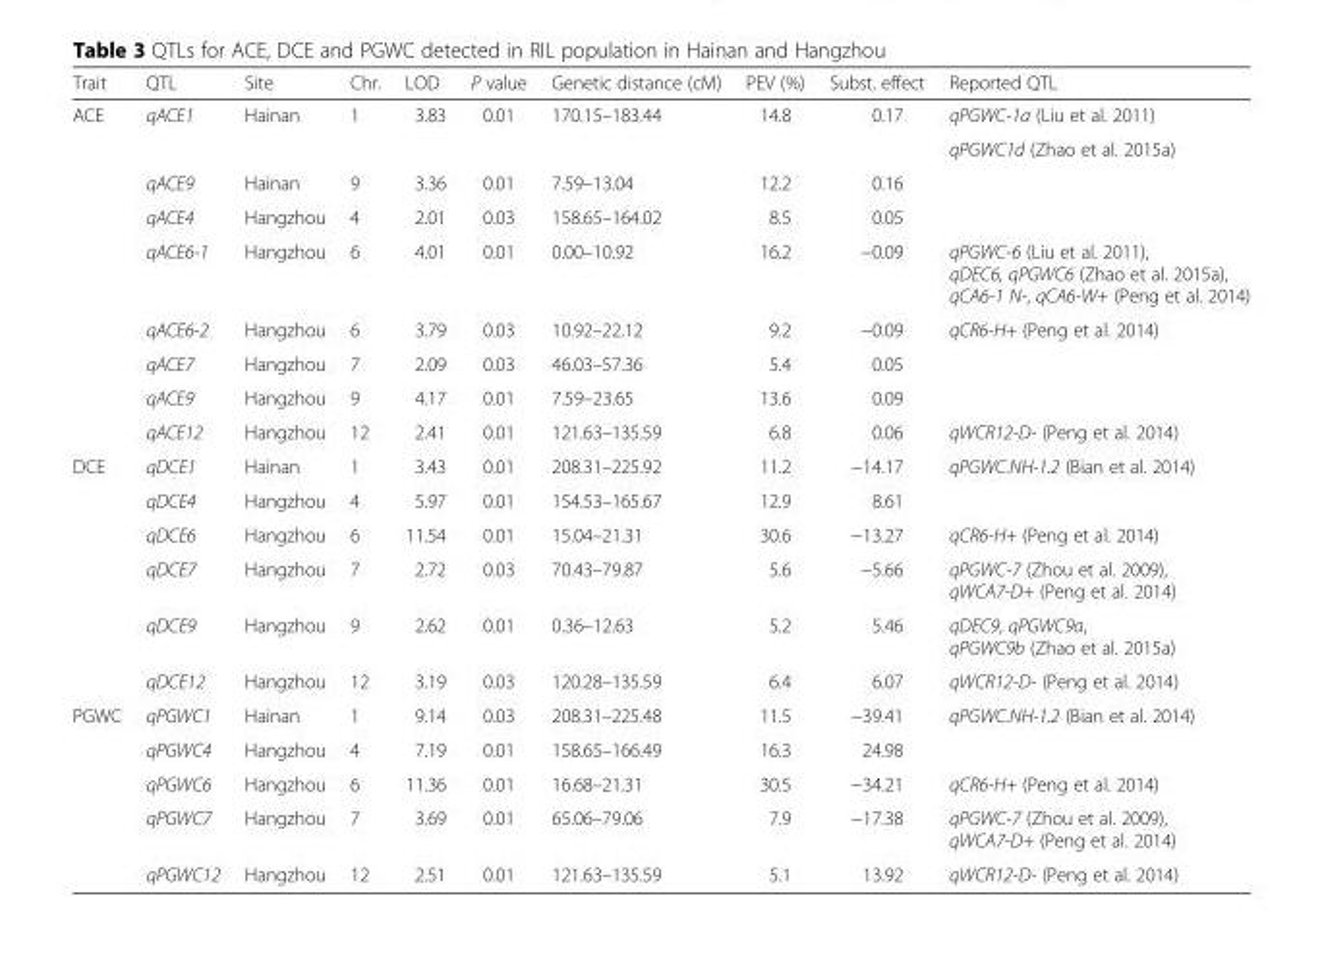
<table><thead><tr><td>Trait</td><td>QTL</td><td>Site</td><td>Chr.</td><td>LOD</td><td>P value</td><td>Genetic distance (cM)</td><td>PEV (%)</td><td>Subst. effect</td><td>Reported QTL</td></tr></thead><tbody><tr><td rowspan="9">ACE</td><td rowspan="2">qACE1</td><td rowspan="2">Hainan</td><td rowspan="2">1</td><td rowspan="2">3.83</td><td rowspan="2">0.01</td><td rowspan="2">170.15–183.44</td><td rowspan="2">14.8</td><td rowspan="2">0.17</td><td>qPGWC-1a (Liu et al. 2011)</td></tr><tr><td>qPGWC1d (Zhao et al. 2015a)</td></tr><tr><td>qACE9</td><td>Hainan</td><td>9</td><td>3.36</td><td>0.01</td><td>7.59–13.04</td><td>12.2</td><td>0.16</td><td></td></tr><tr><td>qACE4</td><td>Hangzhou</td><td>4</td><td>2.01</td><td>0.03</td><td>158.65–164.02</td><td>8.5</td><td>0.05</td><td></td></tr><tr><td>qACE6-1</td><td>Hangzhou</td><td>6</td><td>4.01</td><td>0.01</td><td>0.00–10.92</td><td>16.2</td><td>−0.09</td><td>qPGWC-6 (Liu et al. 2011), qDEC6, qPGWC6 (Zhao et al. 2015a), qCA6-1 N-, qCA6-W+ (Peng et al. 2014)</td></tr><tr><td>qACE6-2</td><td>Hangzhou</td><td>6</td><td>3.79</td><td>0.03</td><td>10.92–22.12</td><td>9.2</td><td>−0.09</td><td>qCR6-H+ (Peng et al. 2014)</td></tr><tr><td>qACE7</td><td>Hangzhou</td><td>7</td><td>2.09</td><td>0.03</td><td>46.03–57.36</td><td>5.4</td><td>0.05</td><td></td></tr><tr><td>qACE9</td><td>Hangzhou</td><td>9</td><td>4.17</td><td>0.01</td><td>7.59–23.65</td><td>13.6</td><td>0.09</td><td></td></tr><tr><td>qACE12</td><td>Hangzhou</td><td>12</td><td>2.41</td><td>0.01</td><td>121.63–135.59</td><td>6.8</td><td>0.06</td><td>qWCR12-D- (Peng et al. 2014)</td></tr><tr><td rowspan="6">DCE</td><td>qDCE1</td><td>Hainan</td><td>1</td><td>3.43</td><td>0.01</td><td>208.31–225.92</td><td>11.2</td><td>−14.17</td><td>qPGWC.NH-1.2 (Bian et al. 2014)</td></tr><tr><td>qDCE4</td><td>Hangzhou</td><td>4</td><td>5.97</td><td>0.01</td><td>154.53–165.67</td><td>12.9</td><td>8.61</td><td></td></tr><tr><td>qDCE6</td><td>Hangzhou</td><td>6</td><td>11.54</td><td>0.01</td><td>15.04–21.31</td><td>30.6</td><td>−13.27</td><td>qCR6-H+ (Peng et al. 2014)</td></tr><tr><td>qDCE7</td><td>Hangzhou</td><td>7</td><td>2.72</td><td>0.03</td><td>70.43–79.87</td><td>5.6</td><td>−5.66</td><td>qPGWC-7 (Zhou et al. 2009), qWCA7-D+ (Peng et al. 2014)</td></tr><tr><td>qDCE9</td><td>Hangzhou</td><td>9</td><td>2.62</td><td>0.01</td><td>0.36–12.63</td><td>5.2</td><td>5.46</td><td>qDEC9, qPGWC9a, qPGWC9b (Zhao et al. 2015a)</td></tr><tr><td>qDCE12</td><td>Hangzhou</td><td>12</td><td>3.19</td><td>0.03</td><td>120.28–135.59</td><td>6.4</td><td>6.07</td><td>qWCR12-D- (Peng et al. 2014)</td></tr><tr><td rowspan="5">PGWC</td><td>qPGWC1</td><td>Hainan</td><td>1</td><td>9.14</td><td>0.03</td><td>208.31–225.48</td><td>11.5</td><td>−39.41</td><td>qPGWC.NH-1.2 (Bian et al. 2014)</td></tr><tr><td>qPGWC4</td><td>Hangzhou</td><td>4</td><td>7.19</td><td>0.01</td><td>158.65–166.49</td><td>16.3</td><td>24.98</td><td></td></tr><tr><td>qPGWC6</td><td>Hangzhou</td><td>6</td><td>11.36</td><td>0.01</td><td>16.68–21.31</td><td>30.5</td><td>−34.21</td><td>qCR6-H+ (Peng et al. 2014)</td></tr><tr><td>qPGWC7</td><td>Hangzhou</td><td>7</td><td>3.69</td><td>0.01</td><td>65.06–79.06</td><td>7.9</td><td>−17.38</td><td>qPGWC-7 (Zhou et al. 2009), qWCA7-D+ (Peng et al. 2014)</td></tr><tr><td>qPGWC12</td><td>Hangzhou</td><td>12</td><td>2.51</td><td>0.01</td><td>121.63–135.59</td><td>5.1</td><td>13.92</td><td>qWCR12-D- (Peng et al. 2014)</td></tr></tbody></table>